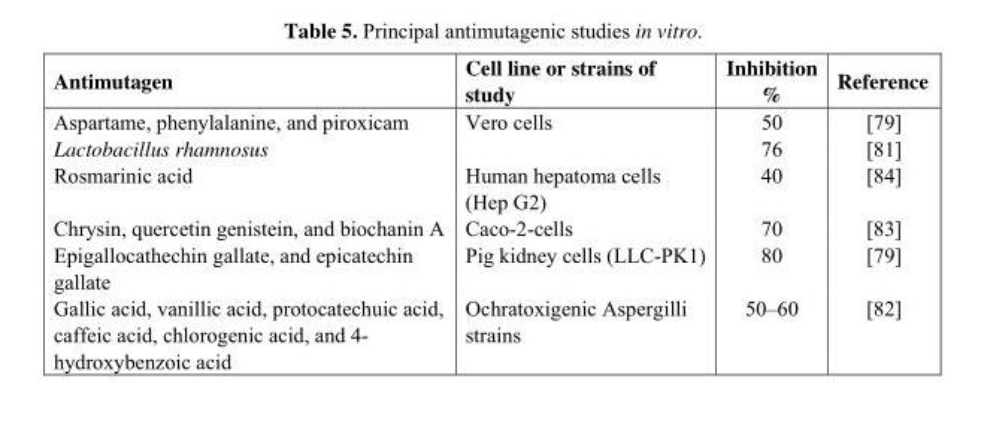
<table><thead><tr><td>Antimutagen</td><td>Cell line or strains of study</td><td>Inhibition %</td><td>Reference</td></tr></thead><tbody><tr><td>Aspartame, phenylalanine, and piroxicam</td><td>Vero cells</td><td>50</td><td>[79]</td></tr><tr><td>Lactobacillus rhamnosus</td><td></td><td>76</td><td>[81]</td></tr><tr><td>Rosmarinic acid</td><td>Human hepatoma cells (Hep G2)</td><td>40</td><td>[84]</td></tr><tr><td>Chrysin, quercetin genistein, and biochanin A</td><td>Caco-2-cells</td><td>70</td><td>[83]</td></tr><tr><td>Epigallocathechin gallate, and epicatechin gallate</td><td>Pig kidney cells (LLC-PK1)</td><td>80</td><td>[79]</td></tr><tr><td>Gallic acid, vanillic acid, protocatechuic acid, caffeic acid, chlorogenic acid, and 4- hydroxybenzoic acid</td><td>Ochratoxigenic Aspergilli strains</td><td>50–60</td><td>[82]</td></tr></tbody></table>